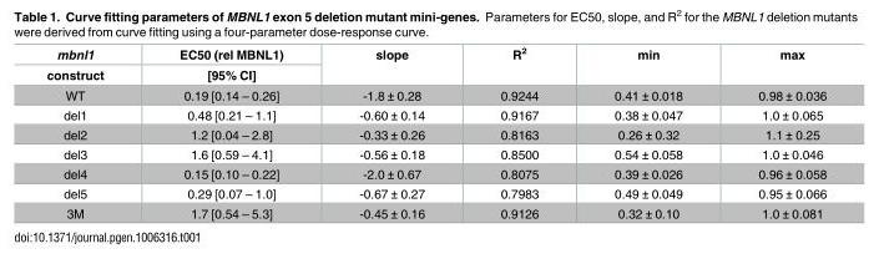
<table><thead><tr><td rowspan="2">mbnl1 construct</td><td rowspan="2">EC50 (rel MBNL1) [95% CI]</td><td rowspan="2">slope</td><td rowspan="2">R<sup>2</sup></td><td rowspan="2">min</td><td rowspan="2">max</td></tr><tr></tr></thead><tbody><tr><td>WT</td><td>0.19 [0.14 – 0.26]</td><td>-1.8 ± 0.28</td><td>0.9244</td><td>0.41 ± 0.018</td><td>0.98 ± 0.036</td></tr><tr><td>del1</td><td>0.48 [0.21 – 1.1]</td><td>-0.60 ± 0.14</td><td>0.9167</td><td>0.38 ± 0.047</td><td>1.0 ± 0.065</td></tr><tr><td>del2</td><td>1.2 [0.04 – 2.8]</td><td>-0.33 ± 0.26</td><td>0.8163</td><td>0.26 ± 0.32</td><td>1.1 ± 0.25</td></tr><tr><td>del3</td><td>1.6 [0.59 – 4.1]</td><td>-0.56 ± 0.18</td><td>0.8500</td><td>0.54 ± 0.058</td><td>1.0 ± 0.046</td></tr><tr><td>del4</td><td>0.15 [0.10 – 0.22]</td><td>-2.0 ± 0.67</td><td>0.8075</td><td>0.39 ± 0.026</td><td>0.96 ± 0.058</td></tr><tr><td>del5</td><td>0.29 [0.07 – 1.0]</td><td>-0.67 ± 0.27</td><td>0.7983</td><td>0.49 ± 0.049</td><td>0.95 ± 0.066</td></tr><tr><td>3M</td><td>1.7 [0.54 – 5.3]</td><td>-0.45 ± 0.16</td><td>0.9126</td><td>0.32 ± 0.10</td><td>1.0 ± 0.081</td></tr></tbody></table>